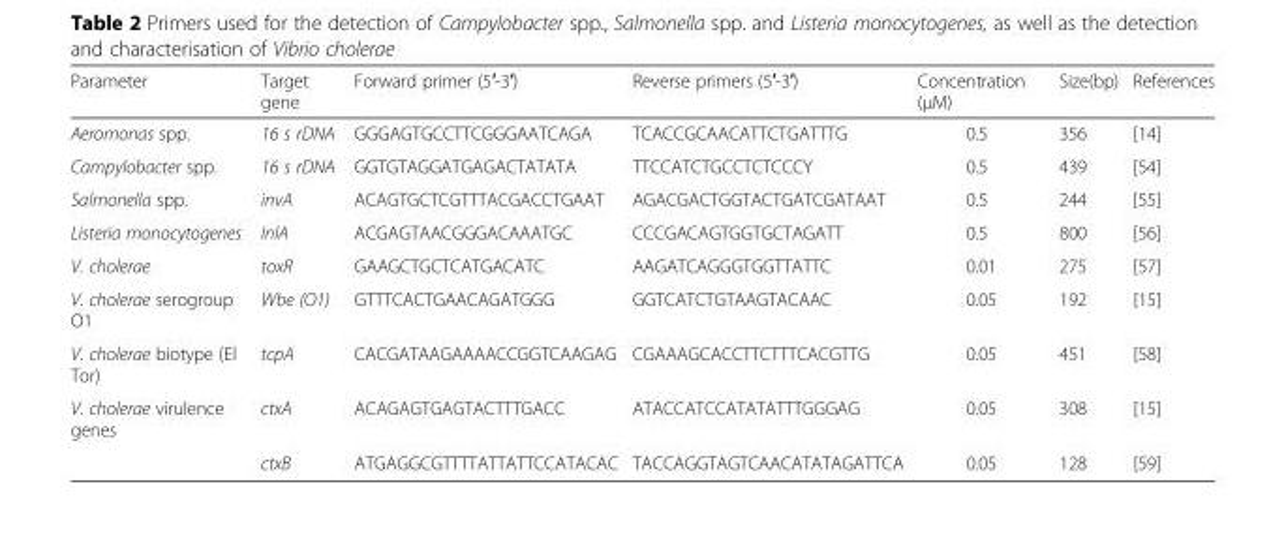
<table><thead><tr><td>Parameter</td><td>Target gene</td><td>Forward primer (5′-3′)</td><td>Reverse primers (5′-3′)</td><td>Concentration (μM)</td><td>Size(bp)</td><td>References</td></tr></thead><tbody><tr><td>Aeromonas spp.</td><td>16 s rDNA</td><td>GGGAGTGCCTTCGGGAATCAGA</td><td>TCACCGCAACATTCTGATTTG</td><td>0.5</td><td>356</td><td>[14]</td></tr><tr><td>Campylobacter spp.</td><td>16 s rDNA</td><td>GGTGTAGGATGAGACTATATA</td><td>TTCCATCTGCCTCTCCCY</td><td>0.5</td><td>439</td><td>[54]</td></tr><tr><td>Salmonella spp.</td><td>invA</td><td>ACAGTGCTCGTTTACGACCTGAAT</td><td>AGACGACTGGTACTGATCGATAAT</td><td>0.5</td><td>244</td><td>[55]</td></tr><tr><td>Listeria monocytogenes</td><td>InlA</td><td>ACGAGTAACGGGACAAATGC</td><td>CCCGACAGTGGTGCTAGATT</td><td>0.5</td><td>800</td><td>[56]</td></tr><tr><td>V. cholerae</td><td>toxR</td><td>GAAGCTGCTCATGACATC</td><td>AAGATCAGGGTGGTTATTC</td><td>0.01</td><td>275</td><td>[57]</td></tr><tr><td>V. cholerae serogroup O1</td><td>Wbe (O1)</td><td>GTTTCACTGAACAGATGGG</td><td>GGTCATCTGTAAGTACAAC</td><td>0.05</td><td>192</td><td>[15]</td></tr><tr><td>V. cholerae biotype (El Tor)</td><td>tcpA</td><td>CACGATAAGAAAACCGGTCAAGAG</td><td>CGAAAGCACCTTCTTTCACGTTG</td><td>0.05</td><td>451</td><td>[58]</td></tr><tr><td rowspan="2">V. cholerae virulence genes</td><td>ctxA</td><td>ACAGAGTGAGTACTTTGACC</td><td>ATACCATCCATATATTTGGGAG</td><td>0.05</td><td>308</td><td>[15]</td></tr><tr><td>ctxB</td><td>ATGAGGCGTTTTATTATTCCATACAC</td><td>TACCAGGTAGTCAACATATAGATTCA</td><td>0.05</td><td>128</td><td>[59]</td></tr></tbody></table>